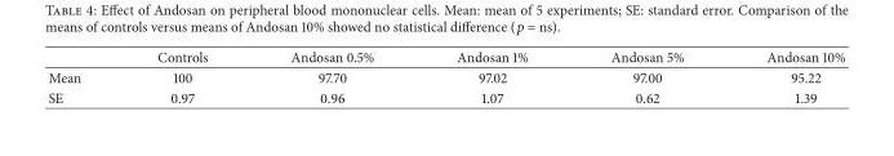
<table><thead><tr><td></td><td>Controls</td><td>Andosan 0.5%</td><td>Andosan 1%</td><td>Andosan 5%</td><td>Andosan 10%</td></tr></thead><tbody><tr><td>Mean</td><td>100</td><td>97.70</td><td>97.02</td><td>97.00</td><td>95.22</td></tr><tr><td>SE</td><td>0.97</td><td>0.96</td><td>1.07</td><td>0.62</td><td>1.39</td></tr></tbody></table>